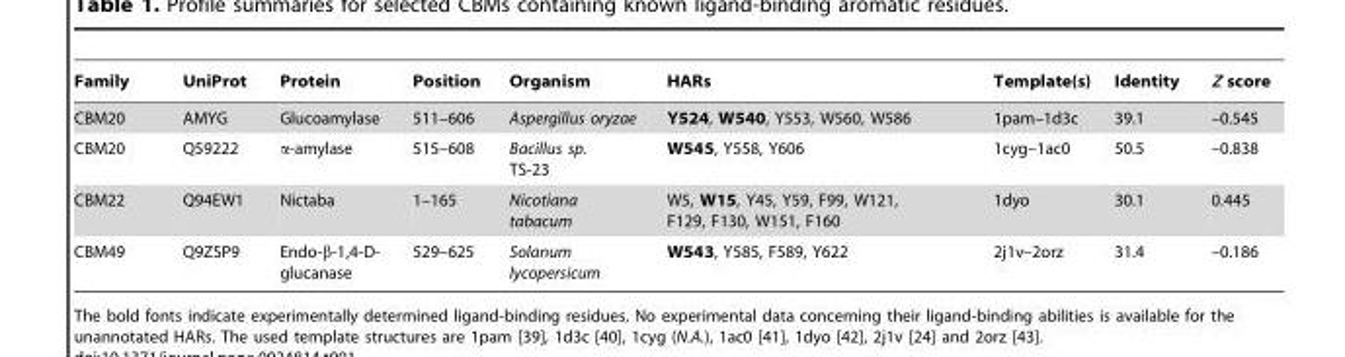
<table><thead><tr><td>Family</td><td>UniProt</td><td>Protein</td><td>Position</td><td>Organism</td><td>HARs</td><td>Template(s)</td><td>Identity</td><td>Z score</td></tr></thead><tbody><tr><td>CBM20</td><td>AMYG</td><td>Glucoamylase</td><td>511–606</td><td>Aspergillus oryzae</td><td>Y524, W540, Y553, W560, W586</td><td>1pam–1d3c</td><td>39.1</td><td>–0.545</td></tr><tr><td>CBM20</td><td>Q59222</td><td>α-amylase</td><td>515–608</td><td>Bacillus sp. TS-23</td><td>W545, Y558, Y606</td><td>1cyg–1ac0</td><td>50.5</td><td>–0.838</td></tr><tr><td>CBM22</td><td>Q94EW1</td><td>Nictaba</td><td>1–165</td><td>Nicotiana tabacum</td><td>W5, W15, Y45, Y59, F99, W121, F129, F130, W151, F160</td><td>1dyo</td><td>30.1</td><td>0.445</td></tr><tr><td>CBM49</td><td>Q9ZSP9</td><td>Endo-β-1,4-D- glucanase</td><td>529–625</td><td>Solanum lycopersicum</td><td>W543, Y585, F589, Y622</td><td>2j1v–2orz</td><td>31.4</td><td>–0.186</td></tr></tbody></table>